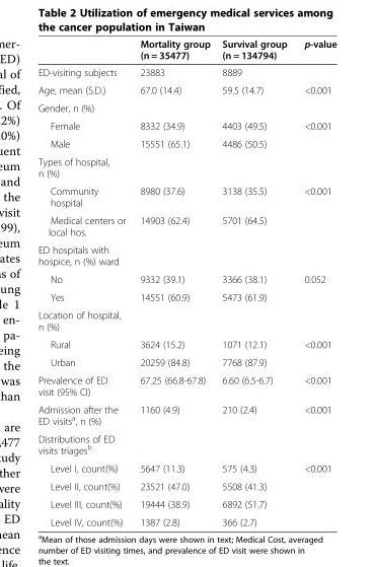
<table><thead><tr><td></td><td>Mortality group (n = 35477)</td><td>Survival group (n = 134794)</td><td>p-value</td></tr></thead><tbody><tr><td>ED-visiting subjects</td><td>23883</td><td>8889</td><td></td></tr><tr><td>Age, mean (S.D.)</td><td>67.0 (14.4)</td><td>59.5 (14.7)</td><td>&lt;0.001</td></tr><tr><td colspan="4">Gender, n (%)</td></tr><tr><td>Female</td><td>8332 (34.9)</td><td>4403 (49.5)</td><td rowspan="2">&lt;0.001</td></tr><tr><td>Male</td><td>15551 (65.1)</td><td>4486 (50.5)</td></tr><tr><td colspan="4">Types of hospital, n (%)</td></tr><tr><td>Community hospital</td><td>8980 (37.6)</td><td>3138 (35.5)</td><td>&lt;0.001</td></tr><tr><td>Medical centers or local hos.</td><td>14903 (62.4)</td><td>5701 (64.5)</td><td></td></tr><tr><td colspan="4">ED hospitals with hospice, n (%) ward</td></tr><tr><td>No</td><td>9332 (39.1)</td><td>3366 (38.1)</td><td>0.052</td></tr><tr><td>Yes</td><td>14551 (60.9)</td><td>5473 (61.9)</td><td></td></tr><tr><td colspan="4">Location of hospital, n (%)</td></tr><tr><td>Rural</td><td>3624 (15.2)</td><td>1071 (12.1)</td><td>&lt;0.001</td></tr><tr><td>Urban</td><td>20259 (84.8)</td><td>7768 (87.9)</td><td></td></tr><tr><td>Prevalence of ED visit (95% CI)</td><td>67.25 (66.8-67.8)</td><td>6.60 (6.5-6.7)</td><td>&lt;0.001</td></tr><tr><td>Admission after the ED visits<sup>a</sup>, n (%)</td><td>1160 (4.9)</td><td>210 (2.4)</td><td>&lt;0.001</td></tr><tr><td colspan="4">Distributions of ED visits triages<sup>b</sup></td></tr><tr><td>Level I, count(%)</td><td>5647 (11.3)</td><td>575 (4.3)</td><td>&lt;0.001</td></tr><tr><td>Level II, count(%)</td><td>23521 (47.0)</td><td>5508 (41.3)</td><td></td></tr><tr><td>Level III, count(%)</td><td>19444 (38.9)</td><td>6892 (51.7)</td><td></td></tr><tr><td>Level IV, count(%)</td><td>1387 (2.8)</td><td>366 (2.7)</td><td></td></tr></tbody></table>